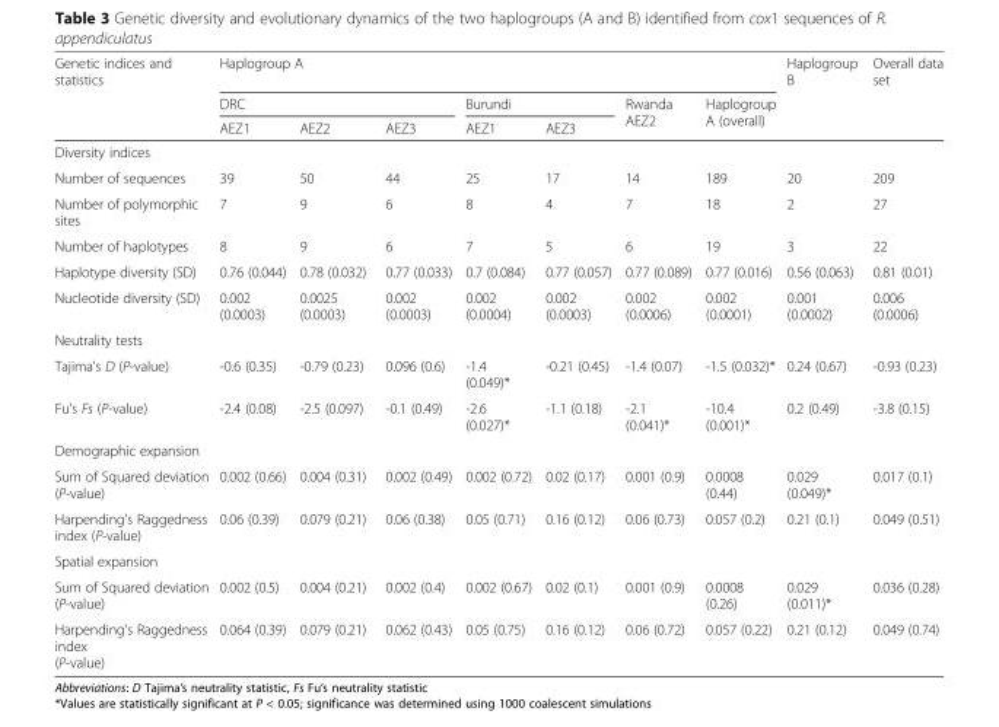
<table><thead><tr><td rowspan="3">Genetic indices and statistics</td><td colspan="7">Haplogroup A</td><td rowspan="3">Haplogroup B</td><td rowspan="3">Overall data set</td></tr><tr><td colspan="3">DRC</td><td colspan="2">Burundi</td><td rowspan="2">Rwanda AEZ2</td><td rowspan="2">Haplogroup A (overall)</td></tr><tr><td>AEZ1</td><td>AEZ2</td><td>AEZ3</td><td>AEZ1</td><td>AEZ3</td></tr></thead><tbody><tr><td colspan="10">Diversity indices</td></tr><tr><td>Number of sequences</td><td>39</td><td>50</td><td>44</td><td>25</td><td>17</td><td>14</td><td>189</td><td>20</td><td>209</td></tr><tr><td>Number of polymorphic sites</td><td>7</td><td>9</td><td>6</td><td>8</td><td>4</td><td>7</td><td>18</td><td>2</td><td>27</td></tr><tr><td>Number of haplotypes</td><td>8</td><td>9</td><td>6</td><td>7</td><td>5</td><td>6</td><td>19</td><td>3</td><td>22</td></tr><tr><td>Haplotype diversity (SD)</td><td>0.76 (0.044)</td><td>0.78 (0.032)</td><td>0.77 (0.033)</td><td>0.7 (0.084)</td><td>0.77 (0.057)</td><td>0.77 (0.089)</td><td>0.77 (0.016)</td><td>0.56 (0.063)</td><td>0.81 (0.01)</td></tr><tr><td>Nucleotide diversity (SD)</td><td>0.002 (0.0003)</td><td>0.0025 (0.0003)</td><td>0.002 (0.0003)</td><td>0.002 (0.0004)</td><td>0.002 (0.0003)</td><td>0.002 (0.0006)</td><td>0.002 (0.0001)</td><td>0.001 (0.0002)</td><td>0.006 (0.0006)</td></tr><tr><td colspan="10">Neutrality tests</td></tr><tr><td>Tajima&#x27;s D (P-value)</td><td>-0.6 (0.35)</td><td>-0.79 (0.23)</td><td>0.096 (0.6)</td><td>-1.4 (0.049)*</td><td>-0.21 (0.45)</td><td>-1.4 (0.07)</td><td>-1.5 (0.032)*</td><td>0.24 (0.67)</td><td>-0.93 (0.23)</td></tr><tr><td>Fu&#x27;s Fs (P-value)</td><td>-2.4 (0.08)</td><td>-2.5 (0.097)</td><td>-0.1 (0.49)</td><td>-2.6 (0.027)*</td><td>-1.1 (0.18)</td><td>-2.1 (0.041)*</td><td>-10.4 (0.001)*</td><td>0.2 (0.49)</td><td>-3.8 (0.15)</td></tr><tr><td colspan="10">Demographic expansion</td></tr><tr><td>Sum of Squared deviation (P-value)</td><td>0.002 (0.66)</td><td>0.004 (0.31)</td><td>0.002 (0.49)</td><td>0.002 (0.72)</td><td>0.02 (0.17)</td><td>0.001 (0.9)</td><td>0.0008 (0.44)</td><td>0.029 (0.049)*</td><td>0.017 (0.1)</td></tr><tr><td>Harpending’s Raggedness index (P-value)</td><td>0.06 (0.39)</td><td>0.079 (0.21)</td><td>0.06 (0.38)</td><td>0.05 (0.71)</td><td>0.16 (0.12)</td><td>0.06 (0.73)</td><td>0.057 (0.2)</td><td>0.21 (0.1)</td><td>0.049 (0.51)</td></tr><tr><td colspan="10">Spatial expansion</td></tr><tr><td>Sum of Squared deviation (P-value)</td><td>0.002 (0.5)</td><td>0.004 (0.21)</td><td>0.002 (0.4)</td><td>0.002 (0.67)</td><td>0.02 (0.1)</td><td>0.001 (0.9)</td><td>0.0008 (0.26)</td><td>0.029 (0.011)*</td><td>0.036 (0.28)</td></tr><tr><td>Harpending’s Raggedness index (P-value)</td><td>0.064 (0.39)</td><td>0.079 (0.21)</td><td>0.062 (0.43)</td><td>0.05 (0.75)</td><td>0.16 (0.12)</td><td>0.06 (0.72)</td><td>0.057 (0.22)</td><td>0.21 (0.12)</td><td>0.049 (0.74)</td></tr></tbody></table>